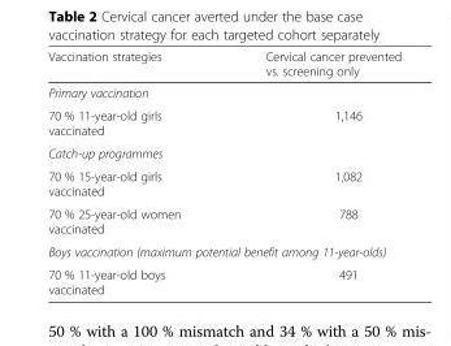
<table><thead><tr><td>Vaccination strategies</td><td>Cervical cancer prevented vs. screening only</td></tr></thead><tbody><tr><td colspan="2">Primary vaccination</td></tr><tr><td>70 % 11-year-old girls vaccinated</td><td>1,146</td></tr><tr><td colspan="2">Catch-up programmes</td></tr><tr><td>70 % 15-year-old girls vaccinated</td><td>1,082</td></tr><tr><td>70 % 25-year-old women vaccinated</td><td>788</td></tr><tr><td colspan="2">Boys vaccination (maximum potential benefit among 11-year-olds)</td></tr><tr><td>70 % 11-year-old boys vaccinated</td><td>491</td></tr></tbody></table>